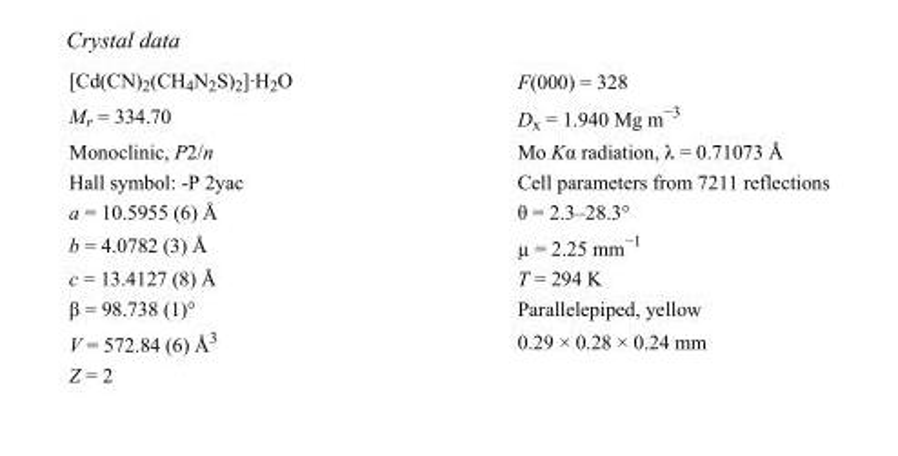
<table><tbody><tr><td>[Cd(CN)<sub>2</sub>(CH<sub>4</sub>N<sub>2</sub>S)<sub>2</sub>]·H<sub>2</sub>O</td><td>F(000) = 328</td></tr><tr><td>M<sub>r</sub> = 334.70</td><td>D<sub>x</sub> = 1.940 Mg m<sup>−3</sup></td></tr><tr><td>Monoclinic, P2/n</td><td>Mo Kα radiation, λ = 0.71073 Å</td></tr><tr><td>Hall symbol: -P 2yac</td><td>Cell parameters from 7211 reflections</td></tr><tr><td>a = 10.5955 (6) Å</td><td>θ = 2.3–28.3°</td></tr><tr><td>b = 4.0782 (3) Å</td><td>µ = 2.25 mm<sup>−1</sup></td></tr><tr><td>c = 13.4127 (8) Å</td><td>T = 294 K</td></tr><tr><td>β = 98.738 (1)°</td><td>Parallelepiped, yellow</td></tr><tr><td>V = 572.84 (6) Å<sup>3</sup></td><td>0.29 × 0.28 × 0.24 mm</td></tr><tr><td>Z = 2</td><td></td></tr></tbody></table>